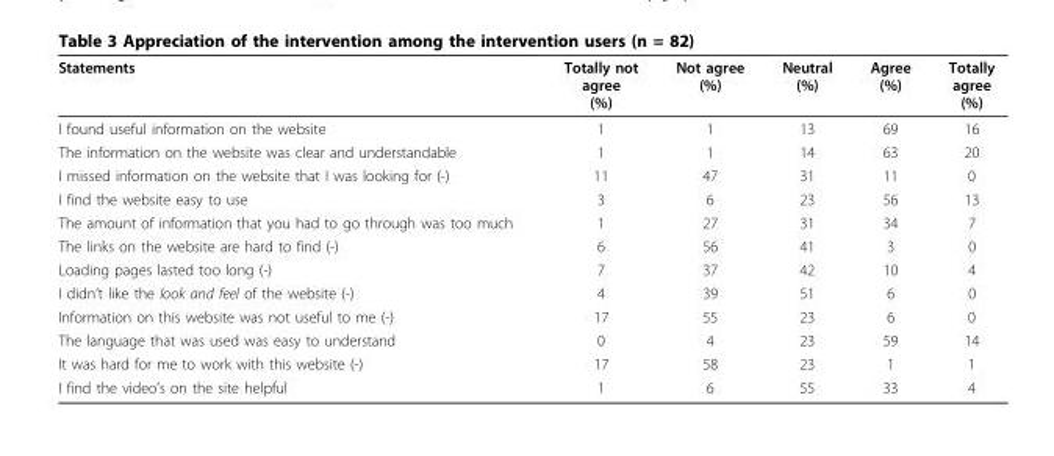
<table><thead><tr><td>Statements</td><td>Totally not agree (%)</td><td>Not agree (%)</td><td>Neutral (%)</td><td>Agree (%)</td><td>Totally agree (%)</td></tr></thead><tbody><tr><td>I found useful information on the website</td><td>1</td><td>1</td><td>13</td><td>69</td><td>16</td></tr><tr><td>The information on the website was clear and understandable</td><td>1</td><td>1</td><td>14</td><td>63</td><td>20</td></tr><tr><td>I missed information on the website that I was looking for (-)</td><td>11</td><td>47</td><td>31</td><td>11</td><td>0</td></tr><tr><td>I find the website easy to use</td><td>3</td><td>6</td><td>23</td><td>56</td><td>13</td></tr><tr><td>The amount of information that you had to go through was too much</td><td>1</td><td>27</td><td>31</td><td>34</td><td>7</td></tr><tr><td>The links on the website are hard to find (-)</td><td>6</td><td>56</td><td>41</td><td>3</td><td>0</td></tr><tr><td>Loading pages lasted too long (-)</td><td>7</td><td>37</td><td>42</td><td>10</td><td>4</td></tr><tr><td>I didn’t like the look and feel of the website (-)</td><td>4</td><td>39</td><td>51</td><td>6</td><td>0</td></tr><tr><td>Information on this website was not useful to me (-)</td><td>17</td><td>55</td><td>23</td><td>6</td><td>0</td></tr><tr><td>The language that was used was easy to understand</td><td>0</td><td>4</td><td>23</td><td>59</td><td>14</td></tr><tr><td>It was hard for me to work with this website (-)</td><td>17</td><td>58</td><td>23</td><td>1</td><td>1</td></tr><tr><td>I find the video’s on the site helpful</td><td>1</td><td>6</td><td>55</td><td>33</td><td>4</td></tr></tbody></table>